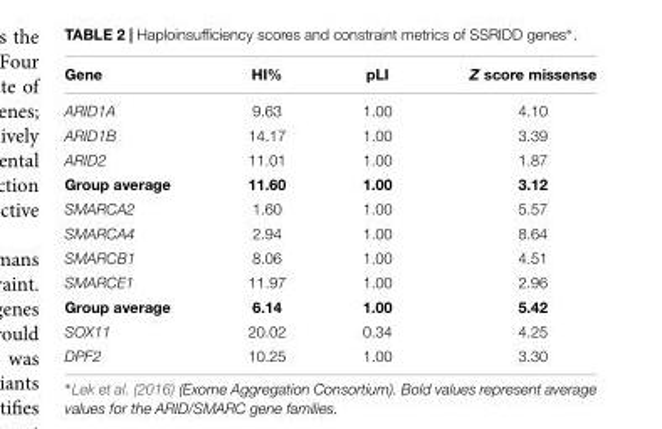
<table><thead><tr><td>Gene</td><td>HI%</td><td>pLI</td><td>Z score missense</td></tr></thead><tbody><tr><td>ARID1A</td><td>9.63</td><td>1.00</td><td>4.10</td></tr><tr><td>ARID1B</td><td>14.17</td><td>1.00</td><td>3.39</td></tr><tr><td>ARID2</td><td>11.01</td><td>1.00</td><td>1.87</td></tr><tr><td>Group average</td><td>11.60</td><td>1.00</td><td>3.12</td></tr><tr><td>SMARCA2</td><td>1.60</td><td>1.00</td><td>5.57</td></tr><tr><td>SMARCA4</td><td>2.94</td><td>1.00</td><td>8.64</td></tr><tr><td>SMARCB1</td><td>8.06</td><td>1.00</td><td>4.51</td></tr><tr><td>SMARCE1</td><td>11.97</td><td>1.00</td><td>2.96</td></tr><tr><td>Group average</td><td>6.14</td><td>1.00</td><td>5.42</td></tr><tr><td>SOX11</td><td>20.02</td><td>0.34</td><td>4.25</td></tr><tr><td>DPF2</td><td>10.25</td><td>1.00</td><td>3.30</td></tr></tbody></table>